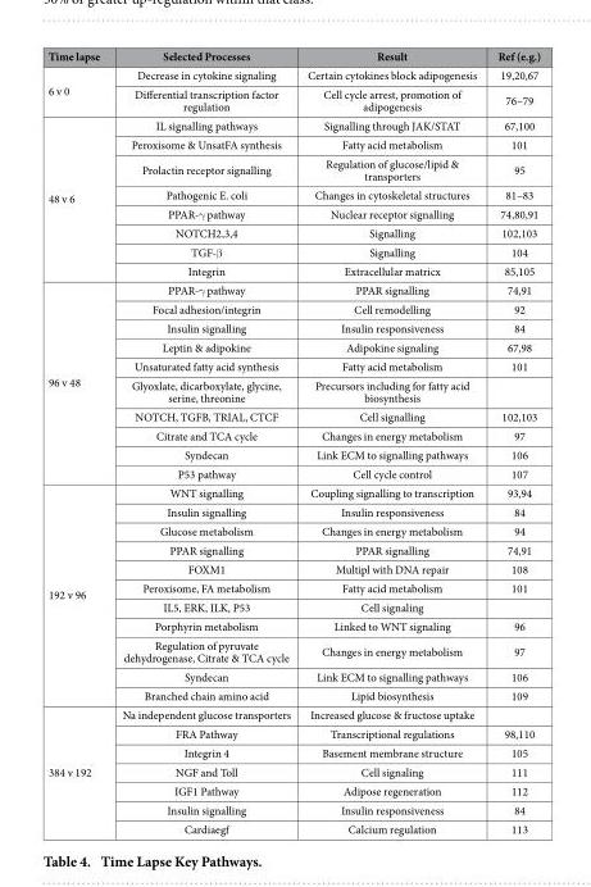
<table><thead><tr><td>Time lapse</td><td>Selected Processes</td><td>Result</td><td>Ref (e.g.)</td></tr></thead><tbody><tr><td rowspan="2">6 v 0</td><td>Decrease in cytokine signaling</td><td>Certain cytokines block adipogenesis</td><td>19,20,67</td></tr><tr><td>Differential transcription factor regulation</td><td>Cell cycle arrest, promotion of adipogenesis</td><td>76–79</td></tr><tr><td rowspan="8">48 v 6</td><td>IL signalling pathways</td><td>Signalling through JAK/STAT</td><td>67,100</td></tr><tr><td>Peroxisome &amp; UnsatFA synthesis</td><td>Fatty acid metabolism</td><td>101</td></tr><tr><td>Prolactin receptor signalling</td><td>Regulation of glucose/lipid &amp; transporters</td><td>95</td></tr><tr><td>Pathogenic E. coli</td><td>Changes in cytoskeletal structures</td><td>81–83</td></tr><tr><td>PPAR-γ pathway</td><td>Nuclear receptor signalling</td><td>74,80,91</td></tr><tr><td>NOTCH2,3,4</td><td>Signalling</td><td>102,103</td></tr><tr><td>TGF-β</td><td>Signalling</td><td>104</td></tr><tr><td>Integrin</td><td>Extracellular matricx</td><td>85,105</td></tr><tr><td rowspan="10">96 v 48</td><td>PPAR-γ pathway</td><td>PPAR signalling</td><td>74,91</td></tr><tr><td>Focal adhesion/integrin</td><td>Cell remodelling</td><td>92</td></tr><tr><td>Insulin signalling</td><td>Insulin responsiveness</td><td>84</td></tr><tr><td>Leptin &amp; adipokine</td><td>Adipokine signaling</td><td>67,98</td></tr><tr><td>Unsaturated fatty acid synthesis</td><td>Fatty acid metabolism</td><td>101</td></tr><tr><td>Glyoxlate, dicarboxylate, glycine, serine, threonine</td><td>Precursors including for fatty acid biosynthesis</td><td></td></tr><tr><td>NOTCH, TGFB, TRIAL, CTCF</td><td>Cell signalling</td><td>102,103</td></tr><tr><td>Citrate and TCA cycle</td><td>Changes in energy metabolism</td><td>97</td></tr><tr><td>Syndecan</td><td>Link ECM to signalling pathways</td><td>106</td></tr><tr><td>P53 pathway</td><td>Cell cycle control</td><td>107</td></tr><tr><td rowspan="11">192 v 96</td><td>WNT signalling</td><td>Coupling signalling to transcription</td><td>93,94</td></tr><tr><td>Insulin signalling</td><td>Insulin responsiveness</td><td>84</td></tr><tr><td>Glucose metabolism</td><td>Changes in energy metabolism</td><td>94</td></tr><tr><td>PPAR signalling</td><td>PPAR signalling</td><td>74,91</td></tr><tr><td>FOXM1</td><td>Multipl with DNA repair</td><td>108</td></tr><tr><td>Peroxisome, FA metabolism</td><td>Fatty acid metabolism</td><td>101</td></tr><tr><td>IL5, ERK, ILK, P53</td><td>Cell signaling</td><td></td></tr><tr><td>Porphyrin metabolism</td><td>Linked to WNT signaling</td><td>96</td></tr><tr><td>Regulation of pyruvate dehydrogenase, Citrate &amp; TCA cycle</td><td>Changes in energy metabolism</td><td>97</td></tr><tr><td>Syndecan</td><td>Link ECM to signalling pathways</td><td>106</td></tr><tr><td>Branched chain amino acid</td><td>Lipid biosynthesis</td><td>109</td></tr><tr><td rowspan="7">384 v 192</td><td>Na independent glucose transporters</td><td>Increased glucose &amp; fructose uptake</td><td></td></tr><tr><td>FRA Pathway</td><td>Transcriptional regulations</td><td>98,110</td></tr><tr><td>Integrin 4</td><td>Basement membrane structure</td><td>105</td></tr><tr><td>NGF and Toll</td><td>Cell signaling</td><td>111</td></tr><tr><td>IGF1 Pathway</td><td>Adipose regeneration</td><td>112</td></tr><tr><td>Insulin signalling</td><td>Insulin responsiveness</td><td>84</td></tr><tr><td>Cardiaegf</td><td>Calcium regulation</td><td>113</td></tr></tbody></table>